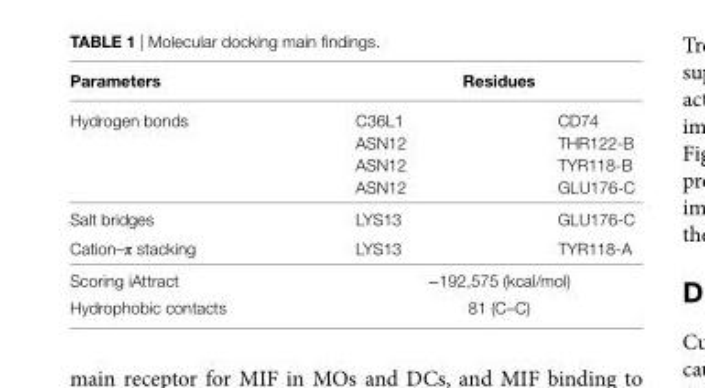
<table><thead><tr><td rowspan="2">Parameters Hydrogen bonds</td><td colspan="2">residues</td></tr><tr><td>C36L1</td><td>CD74</td></tr></thead><tbody><tr><td></td><td>ASN12</td><td>THR122-B</td></tr><tr><td></td><td>ASN12</td><td>TYR118-B</td></tr><tr><td></td><td>ASN12</td><td>GLU176-C</td></tr><tr><td>Salt bridges</td><td>LYS13</td><td>GLU176-C</td></tr><tr><td>Cation–π stacking</td><td>LYS13</td><td>TYR118-A</td></tr><tr><td>Scoring iAttract</td><td colspan="2">−192,575 (kcal/mol)</td></tr><tr><td>Hydrophobic contacts</td><td colspan="2">81 (C–C)</td></tr></tbody></table>